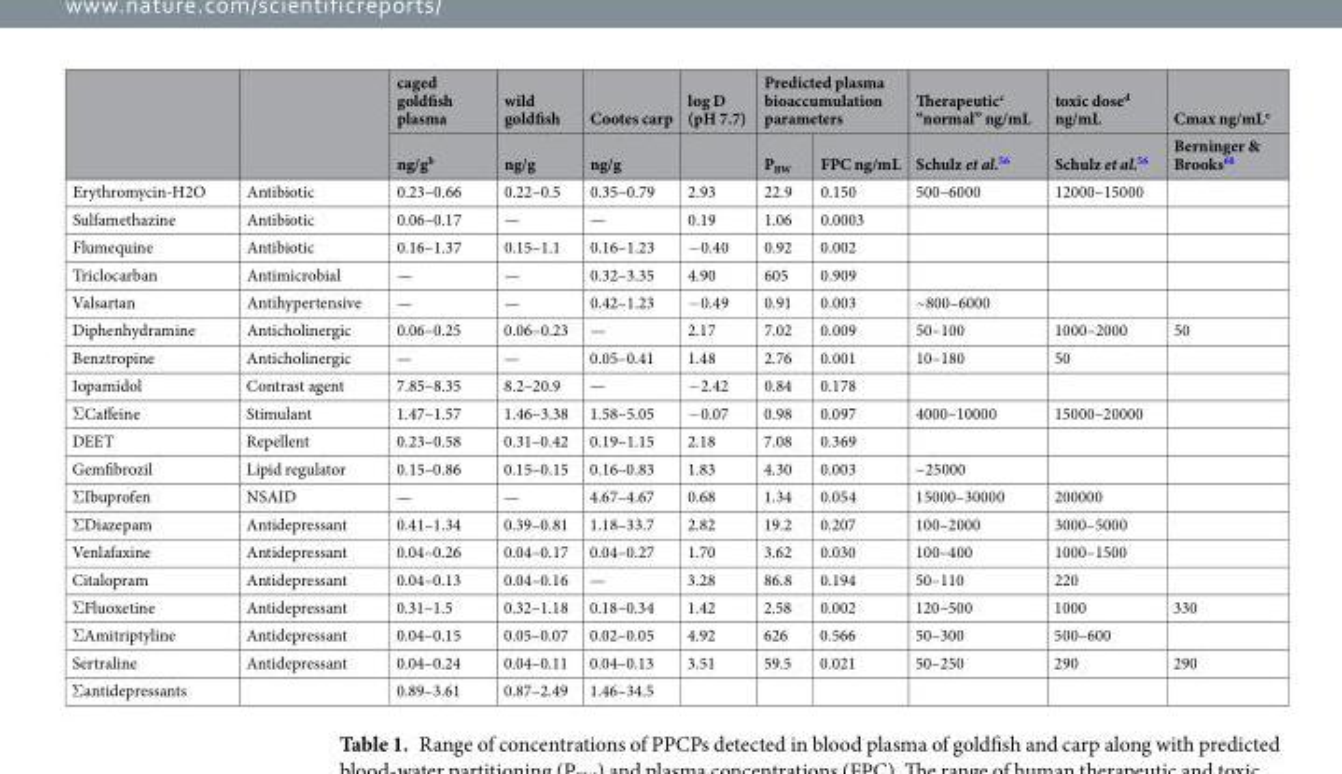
<table><thead><tr><td rowspan="2"></td><td rowspan="2"></td><td rowspan="2">caged goldfish plasma ng/g<sup>b</sup></td><td rowspan="2">wild goldfish ng/g</td><td rowspan="2">Cootes carp ng/g</td><td rowspan="2">log D (pH 7.7)</td><td colspan="2">Predicted plasma bioaccumulation parameters</td><td rowspan="2">Therapeutic<sup>c</sup> “normal” ng/mL Schulz et al.<sup>56</sup></td><td rowspan="2">toxic dose<sup>d</sup> ng/mL Schulz et al.<sup>56</sup></td><td rowspan="2">Cmax ng/mL<sup>e</sup> Berninger &amp; Brooks<sup>60</sup></td></tr><tr><td>P<sub>BW</sub></td><td>FPC ng/mL</td></tr></thead><tbody><tr><td>Erythromycin-H2O</td><td>Antibiotic</td><td>0.23–0.66</td><td>0.22–0.5</td><td>0.35–0.79</td><td>2.93</td><td>22.9</td><td>0.150</td><td>500–6000</td><td>12000–15000</td><td></td></tr><tr><td>Sulfamethazine</td><td>Antibiotic</td><td>0.06–0.17</td><td>—</td><td>—</td><td>0.19</td><td>1.06</td><td>0.0003</td><td></td><td></td><td></td></tr><tr><td>Flumequine</td><td>Antibiotic</td><td>0.16–1.37</td><td>0.15–1.1</td><td>0.16–1.23</td><td>−0.40</td><td>0.92</td><td>0.002</td><td></td><td></td><td></td></tr><tr><td>Triclocarban</td><td>Antimicrobial</td><td>—</td><td>—</td><td>0.32–3.35</td><td>4.90</td><td>605</td><td>0.909</td><td></td><td></td><td></td></tr><tr><td>Valsartan</td><td>Antihypertensive</td><td>—</td><td>—</td><td>0.42–1.23</td><td>−0.49</td><td>0.91</td><td>0.003</td><td>~800–6000</td><td></td><td></td></tr><tr><td>Diphenhydramine</td><td>Anticholinergic</td><td>0.06–0.25</td><td>0.06–0.23</td><td>—</td><td>2.17</td><td>7.02</td><td>0.009</td><td>50–100</td><td>1000–2000</td><td>50</td></tr><tr><td>Benztropine</td><td>Anticholinergic</td><td>—</td><td>—</td><td>0.05–0.41</td><td>1.48</td><td>2.76</td><td>0.001</td><td>10–180</td><td>50</td><td></td></tr><tr><td>Iopamidol</td><td>Contrast agent</td><td>7.85–8.35</td><td>8.2–20.9</td><td>—</td><td>−2.42</td><td>0.84</td><td>0.178</td><td></td><td></td><td></td></tr><tr><td>ΣCaffeine</td><td>Stimulant</td><td>1.47–1.57</td><td>1.46–3.38</td><td>1.58–5.05</td><td>−0.07</td><td>0.98</td><td>0.097</td><td>4000–10000</td><td>15000–20000</td><td></td></tr><tr><td>DEET</td><td>Repellent</td><td>0.23–0.58</td><td>0.31–0.42</td><td>0.19–1.15</td><td>2.18</td><td>7.08</td><td>0.369</td><td></td><td></td><td></td></tr><tr><td>Gemfibrozil</td><td>Lipid regulator</td><td>0.15–0.86</td><td>0.15–0.15</td><td>0.16–0.83</td><td>1.83</td><td>4.30</td><td>0.003</td><td>~25000</td><td></td><td></td></tr><tr><td>ΣIbuprofen</td><td>NSAID</td><td>—</td><td>—</td><td>4.67–4.67</td><td>0.68</td><td>1.34</td><td>0.054</td><td>15000–30000</td><td>200000</td><td></td></tr><tr><td>ΣDiazepam</td><td>Antidepressant</td><td>0.41–1.34</td><td>0.39–0.81</td><td>1.18–33.7</td><td>2.82</td><td>19.2</td><td>0.207</td><td>100–2000</td><td>3000–5000</td><td></td></tr><tr><td>Venlafaxine</td><td>Antidepressant</td><td>0.04–0.26</td><td>0.04–0.17</td><td>0.04–0.27</td><td>1.70</td><td>3.62</td><td>0.030</td><td>100–400</td><td>1000–1500</td><td></td></tr><tr><td>Citalopram</td><td>Antidepressant</td><td>0.04–0.13</td><td>0.04–0.16</td><td>—</td><td>3.28</td><td>86.8</td><td>0.194</td><td>50–110</td><td>220</td><td></td></tr><tr><td>ΣFluoxetine</td><td>Antidepressant</td><td>0.31–1.5</td><td>0.32–1.18</td><td>0.18–0.34</td><td>1.42</td><td>2.58</td><td>0.002</td><td>120–500</td><td>1000</td><td>330</td></tr><tr><td>ΣAmitriptyline</td><td>Antidepressant</td><td>0.04–0.15</td><td>0.05–0.07</td><td>0.02–0.05</td><td>4.92</td><td>626</td><td>0.566</td><td>50–300</td><td>500–600</td><td></td></tr><tr><td>Sertraline</td><td>Antidepressant</td><td>0.04–0.24</td><td>0.04–0.11</td><td>0.04–0.13</td><td>3.51</td><td>59.5</td><td>0.021</td><td>50–250</td><td>290</td><td>290</td></tr><tr><td>Σantidepressants</td><td></td><td>0.89–3.61</td><td>0.87–2.49</td><td>1.46–34.5</td><td></td><td></td><td></td><td></td><td></td><td></td></tr></tbody></table>